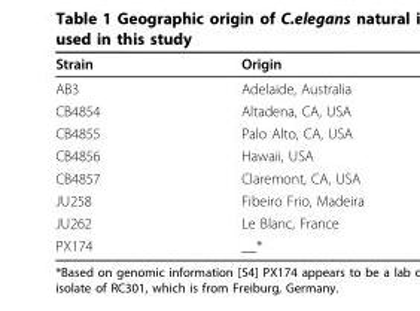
<table><thead><tr><td>Strain</td><td>Origin</td></tr></thead><tbody><tr><td>AB3</td><td>Adelaide, Australia</td></tr><tr><td>CB4854</td><td>Altadena, CA, USA</td></tr><tr><td>CB4855</td><td>Palo Alto, CA, USA</td></tr><tr><td>CB4856</td><td>Hawaii, USA</td></tr><tr><td>CB4857</td><td>Claremont, CA, USA</td></tr><tr><td>JU258</td><td>Fibeiro Frio, Madeira</td></tr><tr><td>JU262</td><td>Le Blanc, France</td></tr><tr><td>PX174</td><td>__*</td></tr></tbody></table>